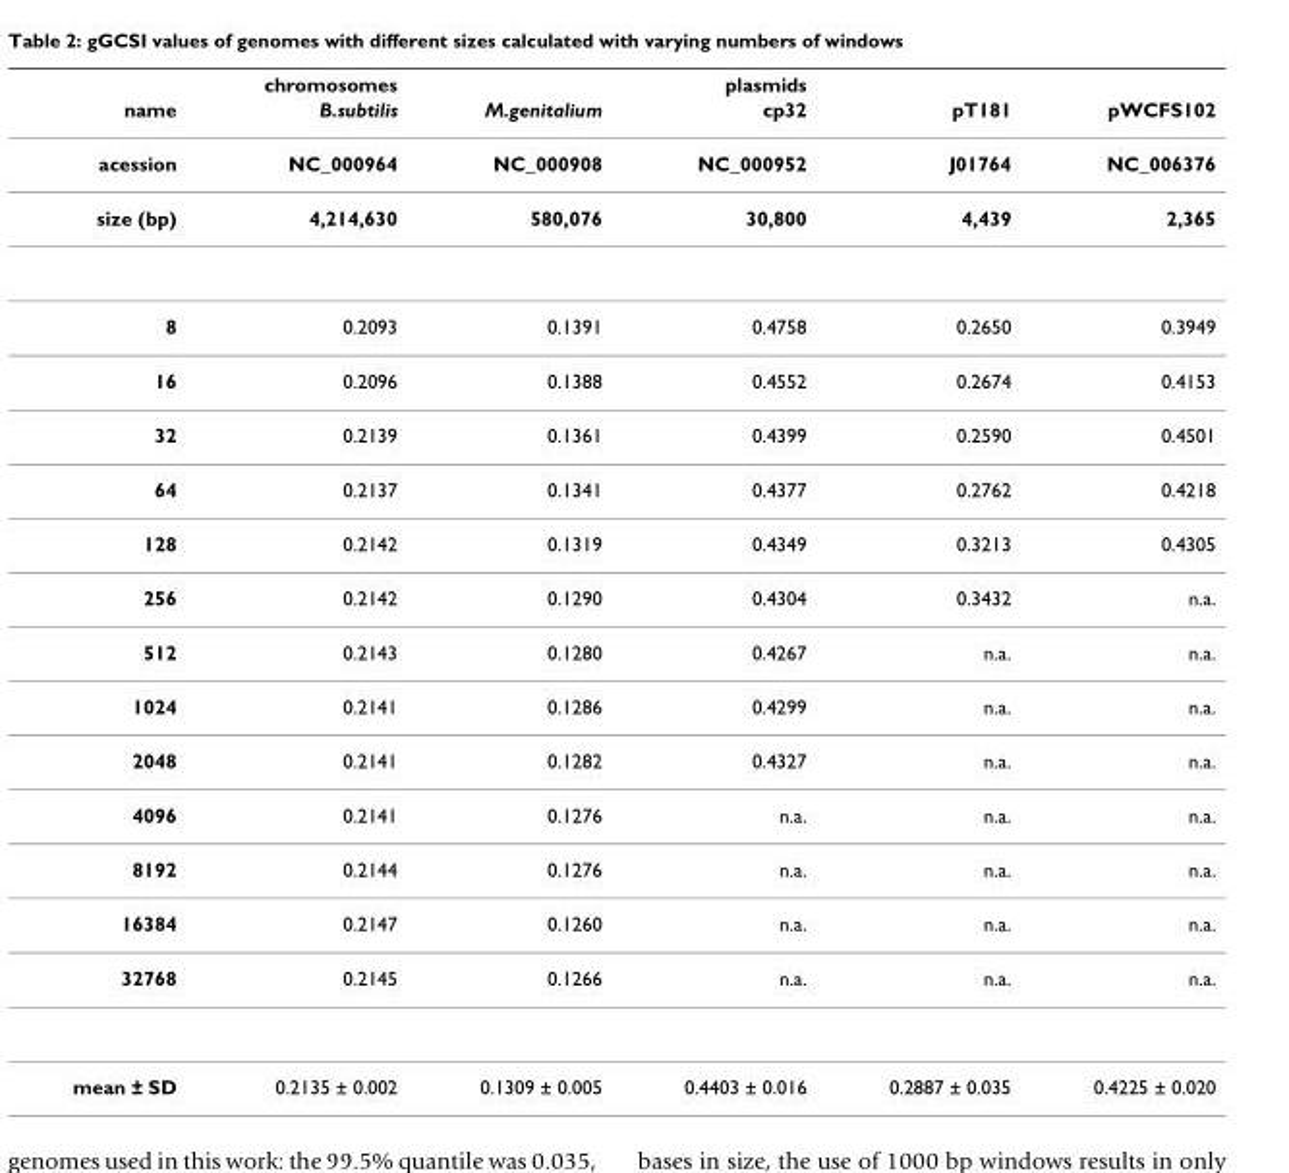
<table><thead><tr><td rowspan="2">name</td><td rowspan="2">chromosomes B.subtilis</td><td rowspan="2">M.genitalium</td><td rowspan="2">plasmids cp32</td><td rowspan="2">pT181</td><td rowspan="2">pWCFS102</td></tr><tr></tr></thead><tbody><tr><td>acession</td><td>NC_000964</td><td>NC_000908</td><td>NC_000952</td><td>J01764</td><td>NC_006376</td></tr><tr><td>size (bp)</td><td>4,214,630</td><td>580,076</td><td>30,800</td><td>4,439</td><td>2,365</td></tr><tr><td>8</td><td>0.2093</td><td>0.1391</td><td>0.4758</td><td>0.2650</td><td>0.3949</td></tr><tr><td>16</td><td>0.2096</td><td>0.1388</td><td>0.4552</td><td>0.2674</td><td>0.4153</td></tr><tr><td>32</td><td>0.2139</td><td>0.1361</td><td>0.4399</td><td>0.2590</td><td>0.4501</td></tr><tr><td>64</td><td>0.2137</td><td>0.1341</td><td>0.4377</td><td>0.2762</td><td>0.4218</td></tr><tr><td>128</td><td>0.2142</td><td>0.1319</td><td>0.4349</td><td>0.3213</td><td>0.4305</td></tr><tr><td>256</td><td>0.2142</td><td>0.1290</td><td>0.4304</td><td>0.3432</td><td>n.a.</td></tr><tr><td>512</td><td>0.2143</td><td>0.1280</td><td>0.4267</td><td>n.a.</td><td>n.a.</td></tr><tr><td>1024</td><td>0.2141</td><td>0.1286</td><td>0.4299</td><td>n.a.</td><td>n.a.</td></tr><tr><td>2048</td><td>0.2141</td><td>0.1282</td><td>0.4327</td><td>n.a.</td><td>n.a.</td></tr><tr><td>4096</td><td>0.2141</td><td>0.1276</td><td>n.a.</td><td>n.a.</td><td>n.a.</td></tr><tr><td>8192</td><td>0.2144</td><td>0.1276</td><td>n.a.</td><td>n.a.</td><td>n.a.</td></tr><tr><td>16384</td><td>0.2147</td><td>0.1260</td><td>n.a.</td><td>n.a.</td><td>n.a.</td></tr><tr><td>32768</td><td>0.2145</td><td>0.1266</td><td>n.a.</td><td>n.a.</td><td>n.a.</td></tr><tr><td>mean ± SD</td><td>0.2135 ± 0.002</td><td>0.1309 ± 0.005</td><td>0.4403 ± 0.016</td><td>0.2887 ± 0.035</td><td>0.4225 ± 0.020</td></tr></tbody></table>